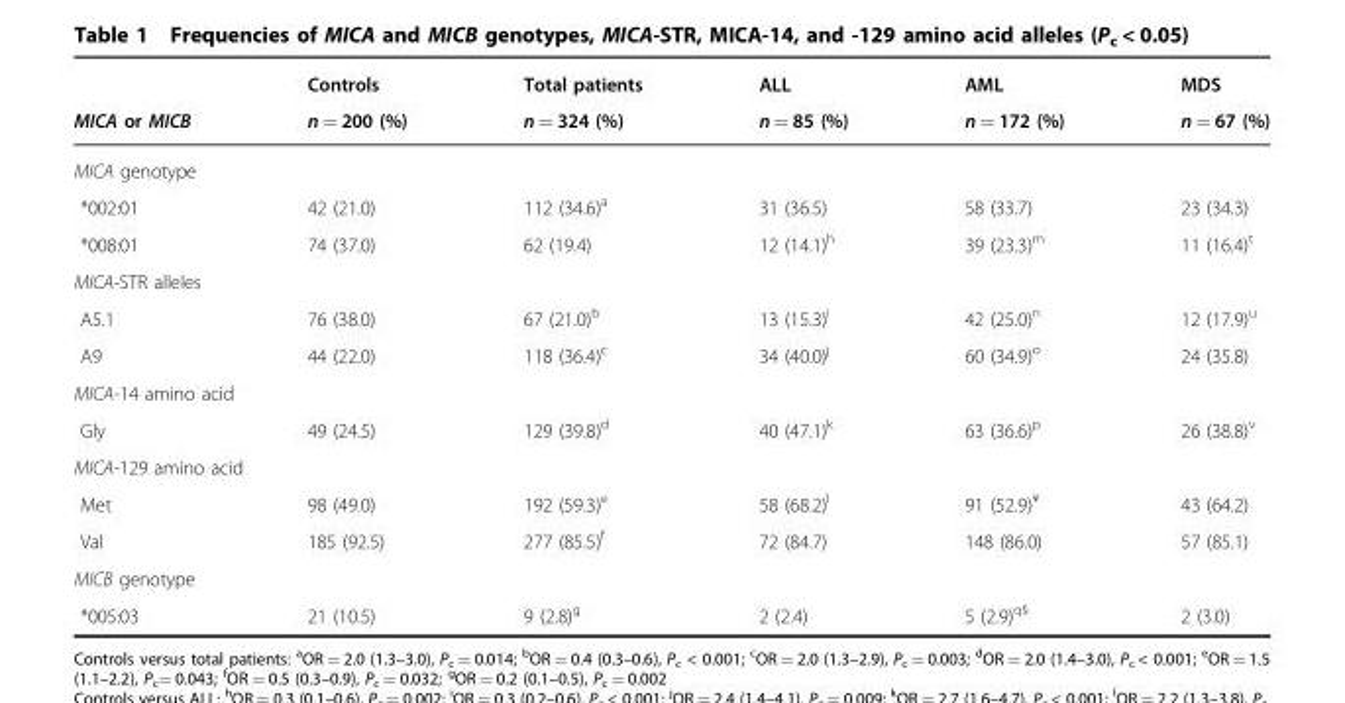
<table><thead><tr><td rowspan="2">MICA or MICB</td><td rowspan="2">Controls n = 200 (%)</td><td rowspan="2">Total patients n = 324 (%)</td><td rowspan="2">ALL n = 85 (%)</td><td rowspan="2">AML n = 172 (%)</td><td rowspan="2">MDS n = 67 (%)</td></tr><tr></tr></thead><tbody><tr><td colspan="6">MICA genotype</td></tr><tr><td>*002:01</td><td>42 (21.0)</td><td>112 (34.6)<sup>a</sup></td><td>31 (36.5)</td><td>58 (33.7)</td><td>23 (34.3)</td></tr><tr><td>*008:01</td><td>74 (37.0)</td><td>62 (19.4)</td><td>12 (14.1)<sup>h</sup></td><td>39 (23.3)<sup>m</sup></td><td>11 (16.4)<sup>t</sup></td></tr><tr><td colspan="6">MICA-STR alleles</td></tr><tr><td>A5.1</td><td>76 (38.0)</td><td>67 (21.0)<sup>b</sup></td><td>13 (15.3)<sup>i</sup></td><td>42 (25.0)<sup>n</sup></td><td>12 (17.9)<sup>u</sup></td></tr><tr><td>A9</td><td>44 (22.0)</td><td>118 (36.4)<sup>c</sup></td><td>34 (40.0)<sup>j</sup></td><td>60 (34.9)<sup>o</sup></td><td>24 (35.8)</td></tr><tr><td colspan="6">MICA-14 amino acid</td></tr><tr><td>Gly</td><td>49 (24.5)</td><td>129 (39.8)<sup>d</sup></td><td>40 (47.1)<sup>k</sup></td><td>63 (36.6)<sup>p</sup></td><td>26 (38.8)<sup>v</sup></td></tr><tr><td colspan="6">MICA-129 amino acid</td></tr><tr><td>Met</td><td>98 (49.0)</td><td>192 (59.3)<sup>e</sup></td><td>58 (68.2)<sup>l</sup></td><td>91 (52.9)<sup>¥</sup></td><td>43 (64.2)</td></tr><tr><td>Val</td><td>185 (92.5)</td><td>277 (85.5)<sup>f</sup></td><td>72 (84.7)</td><td>148 (86.0)</td><td>57 (85.1)</td></tr><tr><td colspan="6">MICB genotype</td></tr><tr><td>*005:03</td><td>21 (10.5)</td><td>9 (2.8)<sup>g</sup></td><td>2 (2.4)</td><td>5 (2.9)<sup>q§</sup></td><td>2 (3.0)</td></tr></tbody></table>